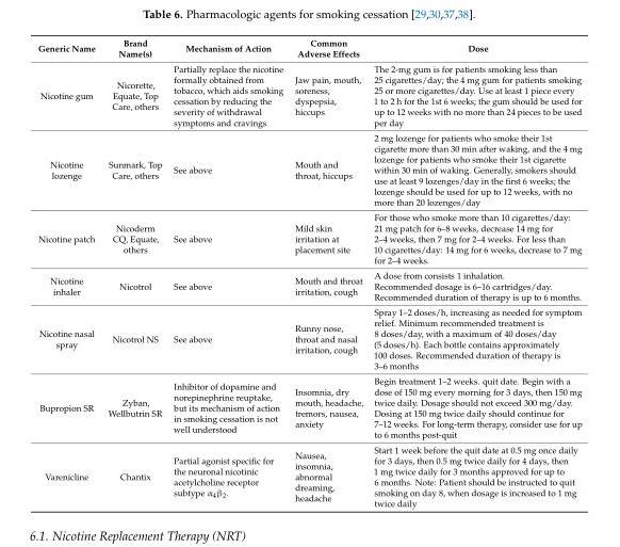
<table><thead><tr><td>Generic Name</td><td>Brand Name(s)</td><td>Mechanism of Action</td><td>Common Adverse Effects</td><td>Dose</td></tr></thead><tbody><tr><td>Nicotine gum</td><td>Nicorette, Equate, Top Care, others</td><td>Partially replace the nicotine formally obtained from tobacco, which aids smoking cessation by reducing the severity of withdrawal symptoms and cravings</td><td>Jaw pain, mouth, soreness, dyspepsia, hiccups</td><td>The 2-mg gum is for patients smoking less than 25 cigarettes/day; the 4 mg gum for patients smoking 25 or more cigarettes/day. Use at least 1 piece every 1 to 2 h for the 1st 6 weeks; the gum should be used for up to 12 weeks with no more than 24 pieces to be used per day</td></tr><tr><td>Nicotine lozenge</td><td>Sunmark, Top Care, others</td><td>See above</td><td>Mouth and throat, hiccups</td><td>2 mg lozenge for patients who smoke their 1st cigarette more than 30 min after waking, and the 4 mg lozenge for patients who smoke their 1st cigarette within 30 min of waking. Generally, smokers should use at least 9 lozenges/day in the first 6 weeks; the lozenge should be used for up to 12 weeks, with no more than 20 lozenges/day</td></tr><tr><td>Nicotine patch</td><td>Nicoderm CQ, Equate, others</td><td>See above</td><td>Mild skin irritation at placement site</td><td>For those who smoke more than 10 cigarettes/day: 21 mg patch for 6–8 weeks, decrease 14 mg for 2–4 weeks, then 7 mg for 2–4 weeks. For less than 10 cigarettes/day: 14 mg for 6 weeks, decrease to 7 mg for 2–4 weeks.</td></tr><tr><td>Nicotine inhaler</td><td>Nicotrol</td><td>See above</td><td>Mouth and throat irritation, cough</td><td>A dose from consists 1 inhalation. Recommended dosage is 6–16 cartridges/day. Recommended duration of therapy is up to 6 months.</td></tr><tr><td>Nicotine nasal spray</td><td>Nicotrol NS</td><td>See above</td><td>Runny nose, throat and nasal irritation, cough</td><td>Spray 1–2 doses/h, increasing as needed for symptom relief. Minimum recommended treatment is 8 doses/day, with a maximum of 40 doses/day (5 doses/h). Each bottle contains approximately 100 doses. Recommended duration of therapy is 3–6 months</td></tr><tr><td>Bupropion SR</td><td>Zyban, Wellbutrin SR</td><td>Inhibitor of dopamine and norepinephrine reuptake, but its mechanism of action in smoking cessation is not well understood</td><td>Insomnia, dry mouth, headache, tremors, nausea, anxiety</td><td>Begin treatment 1–2 weeks. quit date. Begin with a dose of 150 mg every morning for 3 days, then 150 mg twice daily. Dosage should not exceed 300 mg/day. Dosing at 150 mg twice daily should continue for 7–12 weeks. For long-term therapy, consider use for up to 6 months post-quit</td></tr><tr><td>Varenicline</td><td>Chantix</td><td>Partial agonist specific for the neuronal nicotinic acetylcholine receptor subtype α<sub>4</sub>β<sub>2</sub>.</td><td>Nausea, insomnia, abnormal dreaming, headache</td><td>Start 1 week before the quit date at 0.5 mg once daily for 3 days, then 0.5 mg twice daily for 4 days, then 1 mg twice daily for 3 months approved for up to 6 months. Note: Patient should be instructed to quit smoking on day 8, when dosage is increased to 1 mg twice daily</td></tr></tbody></table>